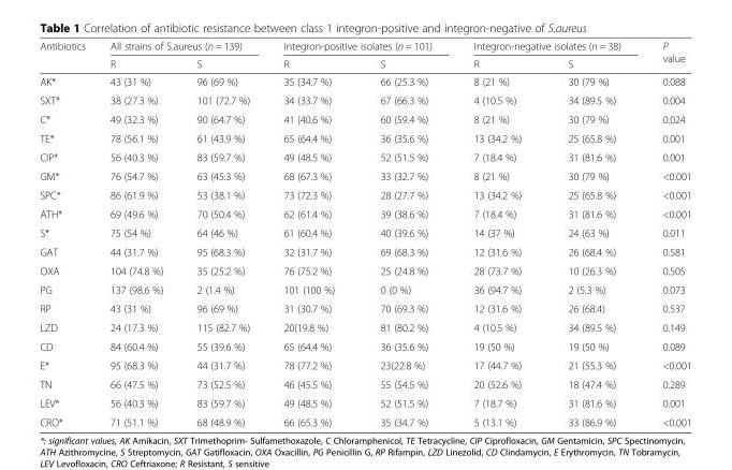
<table><thead><tr><td rowspan="2">Antibiotics</td><td colspan="2">All strains of S.aureus (n = 139)</td><td colspan="2">Integron-positive isolates (n = 101)</td><td colspan="2">Integron-negative isolates (n = 38)</td><td rowspan="2">P value</td></tr><tr><td>R</td><td>S</td><td>R</td><td>S</td><td>R</td><td>S</td></tr></thead><tbody><tr><td>AK*</td><td>43 (31 %)</td><td>96 (69 %)</td><td>35 (34.7 %)</td><td>66 (25.3 %)</td><td>8 (21 %)</td><td>30 (79 %)</td><td>0.088</td></tr><tr><td>SXT*</td><td>38 (27.3 %)</td><td>101 (72.7 %)</td><td>34 (33.7 %)</td><td>67 (66.3 %)</td><td>4 (10.5 %)</td><td>34 (89.5 %)</td><td>0.004</td></tr><tr><td>C*</td><td>49 (32.3 %)</td><td>90 (64.7 %)</td><td>41 (40.6 %)</td><td>60 (59.4 %)</td><td>8 (21 %)</td><td>30 (79 %)</td><td>0.024</td></tr><tr><td>TE*</td><td>78 (56.1 %)</td><td>61 (43.9 %)</td><td>65 (64.4 %)</td><td>36 (35.6 %)</td><td>13 (34.2 %)</td><td>25 (65.8 %)</td><td>0.001</td></tr><tr><td>CIP*</td><td>56 (40.3 %)</td><td>83 (59.7 %)</td><td>49 (48.5 %)</td><td>52 (51.5 %)</td><td>7 (18.4 %)</td><td>31 (81.6 %)</td><td>0.001</td></tr><tr><td>GM*</td><td>76 (54.7 %)</td><td>63 (45.3 %)</td><td>68 (67.3 %)</td><td>33 (32.7 %)</td><td>8 (21 %)</td><td>30 (79 %)</td><td>&lt;0.001</td></tr><tr><td>SPC*</td><td>86 (61.9 %)</td><td>53 (38.1 %)</td><td>73 (72.3 %)</td><td>28 (27.7 %)</td><td>13 (34.2 %)</td><td>25 (65.8 %)</td><td>&lt;0.001</td></tr><tr><td>ATH*</td><td>69 (49.6 %)</td><td>70 (50.4 %)</td><td>62 (61.4 %)</td><td>39 (38.6 %)</td><td>7 (18.4 %)</td><td>31 (81.6 %)</td><td>&lt;0.001</td></tr><tr><td>S*</td><td>75 (54 %)</td><td>64 (46 %)</td><td>61 (60.4 %)</td><td>40 (39.6 %)</td><td>14 (37 %)</td><td>24 (63 %)</td><td>0.011</td></tr><tr><td>GAT</td><td>44 (31.7 %)</td><td>95 (68.3 %)</td><td>32 (31.7 %)</td><td>69 (68.3 %)</td><td>12 (31.6 %)</td><td>26 (68.4 %)</td><td>0.581</td></tr><tr><td>OXA</td><td>104 (74.8 %)</td><td>35 (25.2 %)</td><td>76 (75.2 %)</td><td>25 (24.8 %)</td><td>28 (73.7 %)</td><td>10 (26.3 %)</td><td>0.505</td></tr><tr><td>PG</td><td>137 (98.6 %)</td><td>2 (1.4 %)</td><td>101 (100 %)</td><td>0 (0 %)</td><td>36 (94.7 %)</td><td>2 (5.3 %)</td><td>0.073</td></tr><tr><td>RP</td><td>43 (31 %)</td><td>96 (69 %)</td><td>31 (30.7 %)</td><td>70 (69.3 %)</td><td>12 (31.6 %)</td><td>26 (68.4)</td><td>0.537</td></tr><tr><td>LZD</td><td>24 (17.3 %)</td><td>115 (82.7 %)</td><td>20(19.8 %)</td><td>81 (80.2 %)</td><td>4 (10.5 %)</td><td>34 (89.5 %)</td><td>0.149</td></tr><tr><td>CD</td><td>84 (60.4 %)</td><td>55 (39.6 %)</td><td>65 (64.4 %)</td><td>36 (35.6 %)</td><td>19 (50 %)</td><td>19 (50 %)</td><td>0.089</td></tr><tr><td>E*</td><td>95 (68.3 %)</td><td>44 (31.7 %)</td><td>78 (77.2 %)</td><td>23(22.8 %)</td><td>17 (44.7 %)</td><td>21 (55.3 %)</td><td>&lt;0.001</td></tr><tr><td>TN</td><td>66 (47.5 %)</td><td>73 (52.5 %)</td><td>46 (45.5 %)</td><td>55 (54.5 %)</td><td>20 (52.6 %)</td><td>18 (47.4 %)</td><td>0.289</td></tr><tr><td>LEV*</td><td>56 (40.3 %)</td><td>83 (59.7 %)</td><td>49 (48.5 %)</td><td>52 (51.5 %)</td><td>7 (18.7 %)</td><td>31 (81.6 %)</td><td>0.001</td></tr><tr><td>CRO*</td><td>71 (51.1 %)</td><td>68 (48.9 %)</td><td>66 (65.3 %)</td><td>35 (34.7 %)</td><td>5 (13.1 %)</td><td>33 (86.9 %)</td><td>&lt;0.001</td></tr></tbody></table>